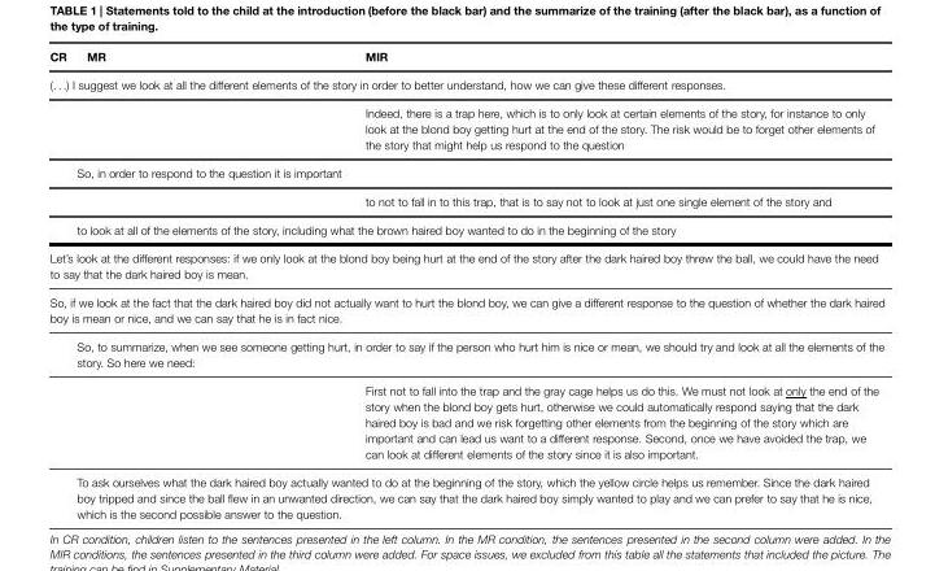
<table><thead><tr><td>CR</td><td>MR</td><td>MIR</td></tr></thead><tbody><tr><td rowspan="5">(. . .)</td><td colspan="2">I suggest we look at all the different elements of the story in order to better understand, how we can give these different responses.</td></tr><tr><td></td><td>Indeed, there is a trap here, which is to only look at certain elements of the story, for instance to only look at the blond boy getting hurt at the end of the story. The risk would be to forget other elements of the story that might help us respond to the question</td></tr><tr><td>So, in order to respond to the question it is important</td><td></td></tr><tr><td></td><td>to not to fall in to this trap, that is to say not to look at just one single element of the story and</td></tr><tr><td colspan="2">to look at all of the elements of the story, including what the brown haired boy wanted to do in the beginning of the story</td></tr><tr><td colspan="3">Let’s look at the different responses: if we only look at the blond boy being hurt at the end of the story after the dark haired boy threw the ball, we could have the need to say that the dark haired boy is mean.</td></tr><tr><td colspan="3">So, if we look at the fact that the dark haired boy did not actually want to hurt the blond boy, we can give a different response to the question of whether the dark haired boy is mean or nice, and we can say that he is in fact nice.</td></tr><tr><td></td><td colspan="2">So, to summarize, when we see someone getting hurt, in order to say if the person who hurt him is nice or mean, we should try and look at all the elements of the story. So here we need:</td></tr><tr><td></td><td></td><td>First not to fall into the trap and the gray cage helps us do this. We must not look at only the end of the story when the blond boy gets hurt, otherwise we could automatically respond saying that the dark haired boy is bad and we risk forgetting other elements from the beginning of the story which are important and can lead us want to a different response. Second, once we have avoided the trap, we can look at different elements of the story since it is also important.</td></tr><tr><td></td><td colspan="2">To ask ourselves what the dark haired boy actually wanted to do at the beginning of the story, which the yellow circle helps us remember. Since the dark haired boy tripped and since the ball flew in an unwanted direction, we can say that the dark haired boy simply wanted to play and we can prefer to say that he is nice, which is the second possible answer to the question.</td></tr></tbody></table>